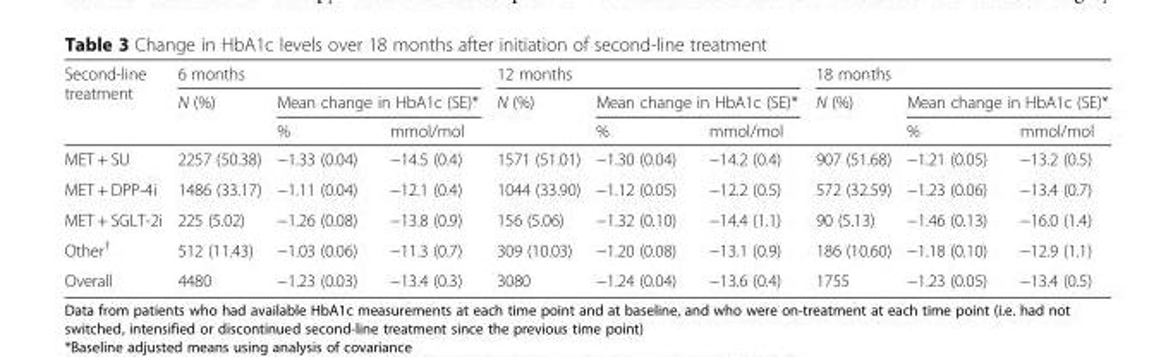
<table><thead><tr><td rowspan="3">Second-line treatment</td><td colspan="3">6 months</td><td colspan="3">12 months</td><td colspan="3">18 months</td></tr><tr><td rowspan="2">N (%)</td><td colspan="2">Mean change in HbA1c (SE)*</td><td rowspan="2">N (%)</td><td colspan="2">Mean change in HbA1c (SE)*</td><td rowspan="2">N (%)</td><td colspan="2">Mean change in HbA1c (SE)*</td></tr><tr><td>%</td><td>mmol/mol</td><td>%</td><td>mmol/mol</td><td>%</td><td>mmol/mol</td></tr></thead><tbody><tr><td>MET + SU</td><td>2257 (50.38)</td><td>−1.33 (0.04)</td><td>−14.5 (0.4)</td><td>1571 (51.01)</td><td>−1.30 (0.04)</td><td>−14.2 (0.4)</td><td>907 (51.68)</td><td>−1.21 (0.05)</td><td>−13.2 (0.5)</td></tr><tr><td>MET + DPP-4i</td><td>1486 (33.17)</td><td>−1.11 (0.04)</td><td>−12.1 (0.4)</td><td>1044 (33.90)</td><td>−1.12 (0.05)</td><td>−12.2 (0.5)</td><td>572 (32.59)</td><td>−1.23 (0.06)</td><td>−13.4 (0.7)</td></tr><tr><td>MET + SGLT-2i</td><td>225 (5.02)</td><td>−1.26 (0.08)</td><td>−13.8 (0.9)</td><td>156 (5.06)</td><td>−1.32 (0.10)</td><td>−14.4 (1.1)</td><td>90 (5.13)</td><td>−1.46 (0.13)</td><td>−16.0 (1.4)</td></tr><tr><td>Other<sup>†</sup></td><td>512 (11.43)</td><td>−1.03 (0.06)</td><td>−11.3 (0.7)</td><td>309 (10.03)</td><td>−1.20 (0.08)</td><td>−13.1 (0.9)</td><td>186 (10.60)</td><td>−1.18 (0.10)</td><td>−12.9 (1.1)</td></tr><tr><td>Overall</td><td>4480</td><td>−1.23 (0.03)</td><td>−13.4 (0.3)</td><td>3080</td><td>−1.24 (0.04)</td><td>−13.6 (0.4)</td><td>1755</td><td>−1.23 (0.05)</td><td>−13.4 (0.5)</td></tr></tbody></table>